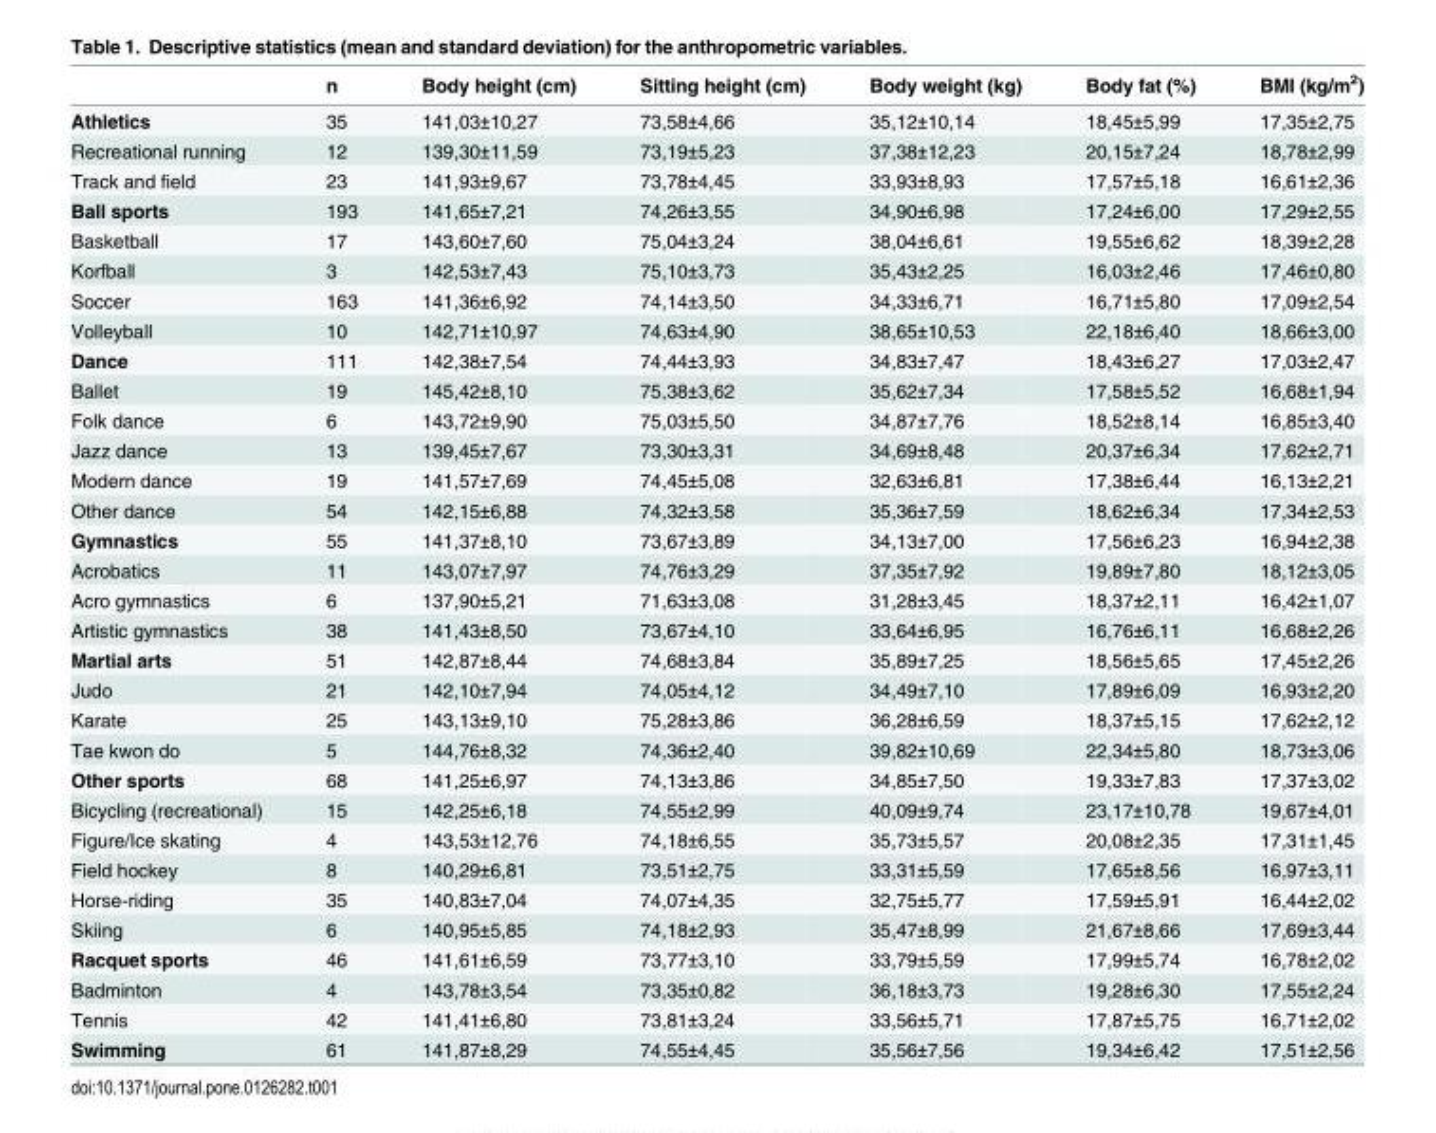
<table><thead><tr><td></td><td>n</td><td>Body height (cm)</td><td>Sitting height (cm)</td><td>Body weight (kg)</td><td>Body fat (%)</td><td>BMI (kg/m<sup>2</sup>)</td></tr></thead><tbody><tr><td>Athletics</td><td>35</td><td>141,03±10,27</td><td>73,58±4,66</td><td>35,12±10,14</td><td>18,45±5,99</td><td>17,35±2,75</td></tr><tr><td>Recreational running</td><td>12</td><td>139,30±11,59</td><td>73,19±5,23</td><td>37,38±12,23</td><td>20,15±7,24</td><td>18,78±2,99</td></tr><tr><td>Track and field</td><td>23</td><td>141,93±9,67</td><td>73,78±4,45</td><td>33,93±8,93</td><td>17,57±5,18</td><td>16,61±2,36</td></tr><tr><td>Ball sports</td><td>193</td><td>141,65±7,21</td><td>74,26±3,55</td><td>34,90±6,98</td><td>17,24±6,00</td><td>17,29±2,55</td></tr><tr><td>Basketball</td><td>17</td><td>143,60±7,60</td><td>75,04±3,24</td><td>38,04±6,61</td><td>19,55±6,62</td><td>18,39±2,28</td></tr><tr><td>Korfball</td><td>3</td><td>142,53±7,43</td><td>75,10±3,73</td><td>35,43±2,25</td><td>16,03±2,46</td><td>17,46±0,80</td></tr><tr><td>Soccer</td><td>163</td><td>141,36±6,92</td><td>74,14±3,50</td><td>34,33±6,71</td><td>16,71±5,80</td><td>17,09±2,54</td></tr><tr><td>Volleyball</td><td>10</td><td>142,71±10,97</td><td>74,63±4,90</td><td>38,65±10,53</td><td>22,18±6,40</td><td>18,66±3,00</td></tr><tr><td>Dance</td><td>111</td><td>142,38±7,54</td><td>74,44±3,93</td><td>34,83±7,47</td><td>18,43±6,27</td><td>17,03±2,47</td></tr><tr><td>Ballet</td><td>19</td><td>145,42±8,10</td><td>75,38±3,62</td><td>35,62±7,34</td><td>17,58±5,52</td><td>16,68±1,94</td></tr><tr><td>Folk dance</td><td>6</td><td>143,72±9,90</td><td>75,03±5,50</td><td>34,87±7,76</td><td>18,52±8,14</td><td>16,85±3,40</td></tr><tr><td>Jazz dance</td><td>13</td><td>139,45±7,67</td><td>73,30±3,31</td><td>34,69±8,48</td><td>20,37±6,34</td><td>17,62±2,71</td></tr><tr><td>Modern dance</td><td>19</td><td>141,57±7,69</td><td>74,45±5,08</td><td>32,63±6,81</td><td>17,38±6,44</td><td>16,13±2,21</td></tr><tr><td>Other dance</td><td>54</td><td>142,15±6,88</td><td>74,32±3,58</td><td>35,36±7,59</td><td>18,62±6,34</td><td>17,34±2,53</td></tr><tr><td>Gymnastics</td><td>55</td><td>141,37±8,10</td><td>73,67±3,89</td><td>34,13±7,00</td><td>17,56±6,23</td><td>16,94±2,38</td></tr><tr><td>Acrobatics</td><td>11</td><td>143,07±7,97</td><td>74,76±3,29</td><td>37,35±7,92</td><td>19,89±7,80</td><td>18,12±3,05</td></tr><tr><td>Acro gymnastics</td><td>6</td><td>137,90±5,21</td><td>71,63±3,08</td><td>31,28±3,45</td><td>18,37±2,11</td><td>16,42±1,07</td></tr><tr><td>Artistic gymnastics</td><td>38</td><td>141,43±8,50</td><td>73,67±4,10</td><td>33,64±6,95</td><td>16,76±6,11</td><td>16,68±2,26</td></tr><tr><td>Martial arts</td><td>51</td><td>142,87±8,44</td><td>74,68±3,84</td><td>35,89±7,25</td><td>18,56±5,65</td><td>17,45±2,26</td></tr><tr><td>Judo</td><td>21</td><td>142,10±7,94</td><td>74,05±4,12</td><td>34,49±7,10</td><td>17,89±6,09</td><td>16,93±2,20</td></tr><tr><td>Karate</td><td>25</td><td>143,13±9,10</td><td>75,28±3,86</td><td>36,28±6,59</td><td>18,37±5,15</td><td>17,62±2,12</td></tr><tr><td>Tae kwon do</td><td>5</td><td>144,76±8,32</td><td>74,36±2,40</td><td>39,82±10,69</td><td>22,34±5,80</td><td>18,73±3,06</td></tr><tr><td>Other sports</td><td>68</td><td>141,25±6,97</td><td>74,13±3,86</td><td>34,85±7,50</td><td>19,33±7,83</td><td>17,37±3,02</td></tr><tr><td>Bicycling (recreational)</td><td>15</td><td>142,25±6,18</td><td>74,55±2,99</td><td>40,09±9,74</td><td>23,17±10,78</td><td>19,67±4,01</td></tr><tr><td>Figure/Ice skating</td><td>4</td><td>143,53±12,76</td><td>74,18±6,55</td><td>35,73±5,57</td><td>20,08±2,35</td><td>17,31±1,45</td></tr><tr><td>Field hockey</td><td>8</td><td>140,29±6,81</td><td>73,51±2,75</td><td>33,31±5,59</td><td>17,65±8,56</td><td>16,97±3,11</td></tr><tr><td>Horse-riding</td><td>35</td><td>140,83±7,04</td><td>74,07±4,35</td><td>32,75±5,77</td><td>17,59±5,91</td><td>16,44±2,02</td></tr><tr><td>Skiing</td><td>6</td><td>140,95±5,85</td><td>74,18±2,93</td><td>35,47±8,99</td><td>21,67±8,66</td><td>17,69±3,44</td></tr><tr><td>Racquet sports</td><td>46</td><td>141,61±6,59</td><td>73,77±3,10</td><td>33,79±5,59</td><td>17,99±5,74</td><td>16,78±2,02</td></tr><tr><td>Badminton</td><td>4</td><td>143,78±3,54</td><td>73,35±0,82</td><td>36,18±3,73</td><td>19,28±6,30</td><td>17,55±2,24</td></tr><tr><td>Tennis</td><td>42</td><td>141,41±6,80</td><td>73,81±3,24</td><td>33,56±5,71</td><td>17,87±5,75</td><td>16,71±2,02</td></tr><tr><td>Swimming</td><td>61</td><td>141,87±8,29</td><td>74,55±4,45</td><td>35,56±7,56</td><td>19,34±6,42</td><td>17,51±2,56</td></tr></tbody></table>